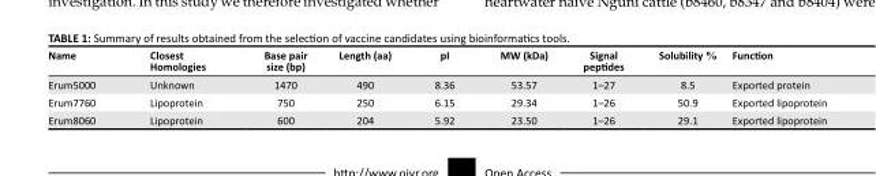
<table><thead><tr><td>Name</td><td>Closest Homologies</td><td>Base pair size (bp)</td><td>Length (aa)</td><td>pI</td><td>MW (kDa)</td><td>Signal peptides</td><td>Solubility %</td><td>Function</td></tr></thead><tbody><tr><td>Erum5000</td><td>Unknown</td><td>1470</td><td>490</td><td>8.36</td><td>53.57</td><td>1–27</td><td>8.5</td><td>Exported protein</td></tr><tr><td>Erum7760</td><td>Lipoprotein</td><td>750</td><td>250</td><td>6.15</td><td>29.34</td><td>1–26</td><td>50.9</td><td>Exported lipoprotein</td></tr><tr><td>Erum8060</td><td>Lipoprotein</td><td>600</td><td>204</td><td>5.92</td><td>23.50</td><td>1–26</td><td>29.1</td><td>Exported lipoprotein</td></tr></tbody></table>